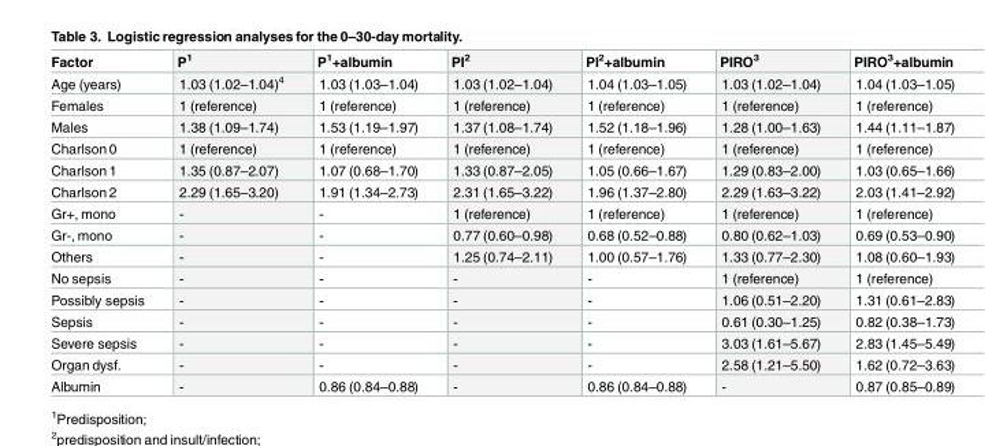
<table><thead><tr><td>Factor</td><td>P<sup>1</sup></td><td>P<sup>1</sup>+albumin</td><td>PI<sup>2</sup></td><td>PI<sup>2</sup>+albumin</td><td>PIRO<sup>3</sup></td><td>PIRO<sup>3</sup>+albumin</td></tr></thead><tbody><tr><td>Age (years)</td><td>1.03 (1.02–1.04)<sup>4</sup></td><td>1.03 (1.03–1.04)</td><td>1.03 (1.02–1.04)</td><td>1.04 (1.03–1.05)</td><td>1.03 (1.02–1.04)</td><td>1.04 (1.03–1.05)</td></tr><tr><td>Females</td><td>1 (reference)</td><td>1 (reference)</td><td>1 (reference)</td><td>1 (reference)</td><td>1 (reference)</td><td>1 (reference)</td></tr><tr><td>Males</td><td>1.38 (1.09–1.74)</td><td>1.53 (1.19–1.97)</td><td>1.37 (1.08–1.74)</td><td>1.52 (1.18–1.96)</td><td>1.28 (1.00–1.63)</td><td>1.44 (1.11–1.87)</td></tr><tr><td>Charlson 0</td><td>1 (reference)</td><td>1 (reference)</td><td>1 (reference)</td><td>1 (reference)</td><td>1 (reference)</td><td>1 (reference)</td></tr><tr><td>Charlson 1</td><td>1.35 (0.87–2.07)</td><td>1.07 (0.68–1.70)</td><td>1.33 (0.87–2.05)</td><td>1.05 (0.66–1.67)</td><td>1.29 (0.83–2.00)</td><td>1.03 (0.65–1.66)</td></tr><tr><td>Charlson 2</td><td>2.29 (1.65–3.20)</td><td>1.91 (1.34–2.73)</td><td>2.31 (1.65–3.22)</td><td>1.96 (1.37–2.80)</td><td>2.29 (1.63–3.22)</td><td>2.03 (1.41–2.92)</td></tr><tr><td>Gr+, mono</td><td>-</td><td>-</td><td>1 (reference)</td><td>1 (reference)</td><td>1 (reference)</td><td>1 (reference)</td></tr><tr><td>Gr-, mono</td><td>-</td><td>-</td><td>0.77 (0.60–0.98)</td><td>0.68 (0.52–0.88)</td><td>0.80 (0.62–1.03)</td><td>0.69 (0.53–0.90)</td></tr><tr><td>Others</td><td>-</td><td>-</td><td>1.25 (0.74–2.11)</td><td>1.00 (0.57–1.76)</td><td>1.33 (0.77–2.30)</td><td>1.08 (0.60–1.93)</td></tr><tr><td>No sepsis</td><td>-</td><td>-</td><td>-</td><td>-</td><td>1 (reference)</td><td>1 (reference)</td></tr><tr><td>Possibly sepsis</td><td>-</td><td>-</td><td>-</td><td>-</td><td>1.06 (0.51–2.20)</td><td>1.31 (0.61–2.83)</td></tr><tr><td>Sepsis</td><td>-</td><td>-</td><td>-</td><td>-</td><td>0.61 (0.30–1.25)</td><td>0.82 (0.38–1.73)</td></tr><tr><td>Severe sepsis</td><td>-</td><td>-</td><td>-</td><td>-</td><td>3.03 (1.61–5.67)</td><td>2.83 (1.45–5.49)</td></tr><tr><td>Organ dysf.</td><td>-</td><td>-</td><td>-</td><td>-</td><td>2.58 (1.21–5.50)</td><td>1.62 (0.72–3.63)</td></tr><tr><td>Albumin</td><td>-</td><td>0.86 (0.84–0.88)</td><td>-</td><td>0.86 (0.84–0.88)</td><td>-</td><td>0.87 (0.85–0.89)</td></tr></tbody></table>